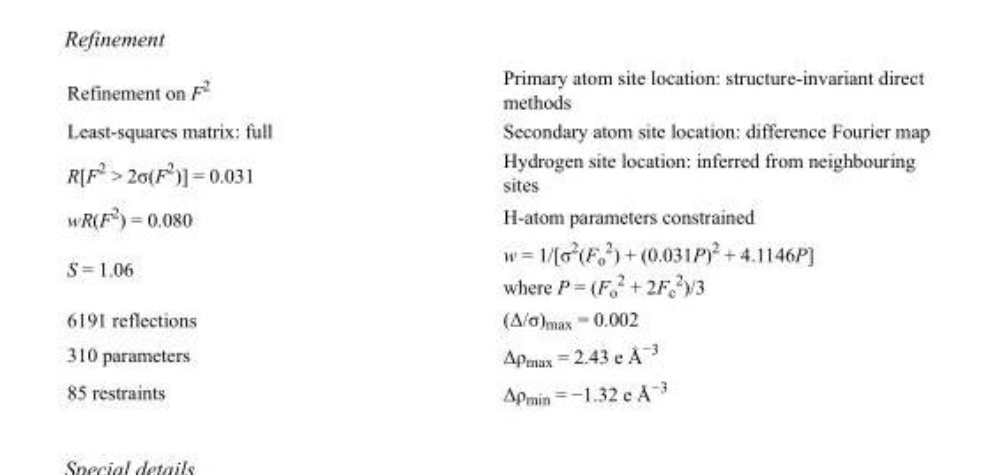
<table><tbody><tr><td>Refinement on F<sup>2</sup></td><td>Primary atom site location: structure-invariant direct methods</td></tr><tr><td>Least-squares matrix: full</td><td>Secondary atom site location: difference Fourier map</td></tr><tr><td>R[F<sup>2</sup> &gt; 2σ(F<sup>2</sup>)] = 0.031</td><td>Hydrogen site location: inferred from neighbouring sites</td></tr><tr><td>wR(F<sup>2</sup>) = 0.080</td><td>H-atom parameters constrained</td></tr><tr><td>S = 1.06</td><td>w = 1/[σ<sup>2</sup>(F<sub>o</sub> <sup>2</sup>) + (0.031P)<sup>2</sup> + 4.1146P] where P = (F<sub>o</sub> <sup>2</sup> + 2F<sub>c</sub> <sup>2</sup>)/3</td></tr><tr><td>6191 reflections</td><td>(Δ/σ)<sub>max</sub> = 0.002</td></tr><tr><td>310 parameters</td><td>Δρ<sub>max</sub> = 2.43 e Å<sup>−3</sup></td></tr><tr><td>85 restraints</td><td>Δρ<sub>min</sub> = −1.32 e Å<sup>−3</sup></td></tr></tbody></table>